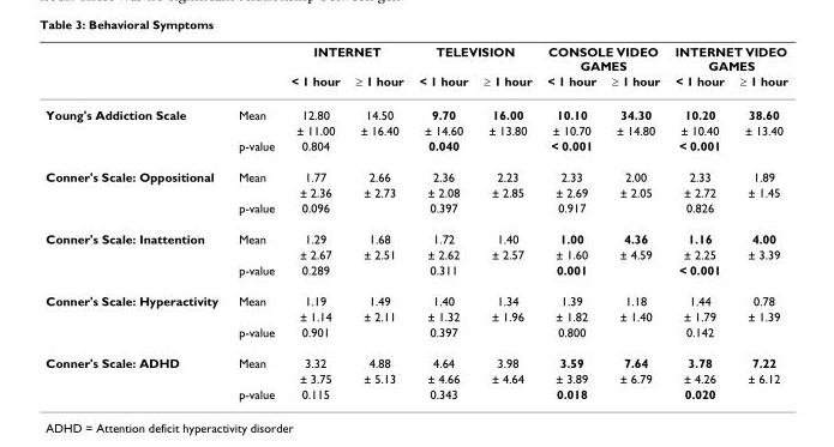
<table><thead><tr><td rowspan="2"></td><td rowspan="2"></td><td colspan="2">INTERNET</td><td colspan="2">TELEVISION</td><td colspan="2">CONSOLE VIDEO GAMES</td><td colspan="2">INTERNET VIDEO GAMES</td></tr><tr><td>&lt; 1 hour</td><td>≥ 1 hour</td><td>&lt; 1 hour</td><td>≥ 1 hour</td><td>&lt; 1 hour</td><td>≥ 1 hour</td><td>&lt; 1 hour</td><td>≥ 1 hour</td></tr></thead><tbody><tr><td rowspan="3">Young&#x27;s Addiction Scale</td><td>Mean</td><td>12.80</td><td>14.50</td><td>9.70</td><td>16.00</td><td>10.10</td><td>34.30</td><td>10.20</td><td>38.60</td></tr><tr><td></td><td>± 11.00</td><td>± 16.40</td><td>± 14.60</td><td>± 13.80</td><td>± 10.70</td><td>± 14.80</td><td>± 10.40</td><td>± 13.40</td></tr><tr><td>p-value</td><td>0.804</td><td></td><td>0.040</td><td></td><td>&lt; 0.001</td><td></td><td>&lt; 0.001</td><td></td></tr><tr><td rowspan="3">Conner&#x27;s Scale: Oppositional</td><td>Mean</td><td>1.77</td><td>2.66</td><td>2.36</td><td>2.23</td><td>2.33</td><td>2.00</td><td>2.33</td><td>1.89</td></tr><tr><td></td><td>± 2.36</td><td>± 2.73</td><td>± 2.08</td><td>± 2.85</td><td>± 2.69</td><td>± 2.05</td><td>± 2.72</td><td>± 1.45</td></tr><tr><td>p-value</td><td>0.096</td><td></td><td>0.397</td><td></td><td>0.917</td><td></td><td>0.826</td><td></td></tr><tr><td rowspan="3">Conner&#x27;s Scale: Inattention</td><td>Mean</td><td>1.29</td><td>1.68</td><td>1.72</td><td>1.40</td><td>1.00</td><td>4.36</td><td>1.16</td><td>4.00</td></tr><tr><td></td><td>± 2.67</td><td>± 2.51</td><td>± 2.62</td><td>± 2.57</td><td>± 1.60</td><td>± 4.59</td><td>± 2.25</td><td>± 3.39</td></tr><tr><td>p-value</td><td>0.289</td><td></td><td>0.311</td><td></td><td>0.001</td><td></td><td>&lt; 0.001</td><td></td></tr><tr><td rowspan="3">Conner&#x27;s Scale: Hyperactivity</td><td>Mean</td><td>1.19</td><td>1.49</td><td>1.40</td><td>1.34</td><td>1.39</td><td>1.18</td><td>1.44</td><td>0.78</td></tr><tr><td></td><td>± 1.14</td><td>± 2.11</td><td>± 1.32</td><td>± 1.96</td><td>± 1.82</td><td>± 1.40</td><td>± 1.79</td><td>± 1.39</td></tr><tr><td>p-value</td><td>0.901</td><td></td><td>0.397</td><td></td><td>0.800</td><td></td><td>0.142</td><td></td></tr><tr><td rowspan="3">Conner&#x27;s Scale: ADHD</td><td>Mean</td><td>3.32</td><td>4.88</td><td>4.64</td><td>3.98</td><td>3.59</td><td>7.64</td><td>3.78</td><td>7.22</td></tr><tr><td></td><td>± 3.75</td><td>± 5.13</td><td>± 4.66</td><td>± 4.64</td><td>± 3.89</td><td>± 6.79</td><td>± 4.26</td><td>± 6.12</td></tr><tr><td>p-value</td><td>0.115</td><td></td><td>0.343</td><td></td><td>0.018</td><td></td><td>0.020</td><td></td></tr></tbody></table>